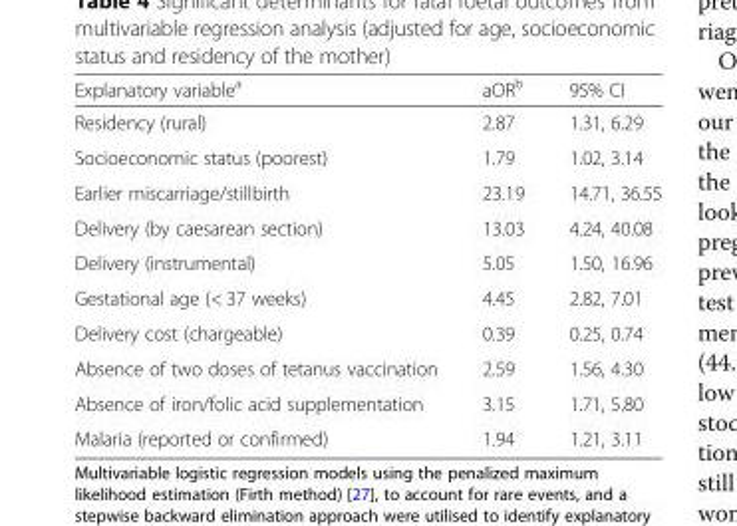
<table><thead><tr><td>Explanatory variable<sup>a</sup></td><td>aOR<sup>b</sup></td><td>95% CI</td></tr></thead><tbody><tr><td>Residency (rural)</td><td>2.87</td><td>1.31, 6.29</td></tr><tr><td>Socioeconomic status (poorest)</td><td>1.79</td><td>1.02, 3.14</td></tr><tr><td>Earlier miscarriage/stillbirth</td><td>23.19</td><td>14.71, 36.55</td></tr><tr><td>Delivery (by caesarean section)</td><td>13.03</td><td>4.24, 40.08</td></tr><tr><td>Delivery (instrumental)</td><td>5.05</td><td>1.50, 16.96</td></tr><tr><td>Gestational age (&lt; 37 weeks)</td><td>4.45</td><td>2.82, 7.01</td></tr><tr><td>Delivery cost (chargeable)</td><td>0.39</td><td>0.25, 0.74</td></tr><tr><td>Absence of two doses of tetanus vaccination</td><td>2.59</td><td>1.56, 4.30</td></tr><tr><td>Absence of iron/folic acid supplementation</td><td>3.15</td><td>1.71, 5.80</td></tr><tr><td>Malaria (reported or confirmed)</td><td>1.94</td><td>1.21, 3.11</td></tr></tbody></table>